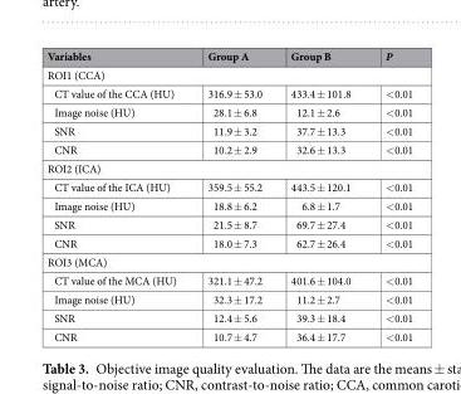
<table><thead><tr><td>Variables</td><td>Group A</td><td>Group B</td><td>P</td></tr></thead><tbody><tr><td colspan="4">ROI1 (CCA)</td></tr><tr><td>CT value of the CCA (HU)</td><td>316.9 ± 53.0</td><td>433.4 ± 101.8</td><td>&lt;0.01</td></tr><tr><td>Image noise (HU)</td><td>28.1 ± 6.8</td><td>12.1 ± 2.6</td><td>&lt;0.01</td></tr><tr><td>SNR</td><td>11.9 ± 3.2</td><td>37.7 ± 13.3</td><td>&lt;0.01</td></tr><tr><td>CNR</td><td>10.2 ± 2.9</td><td>32.6 ± 13.3</td><td>&lt;0.01</td></tr><tr><td colspan="4">ROI2 (ICA)</td></tr><tr><td>CT value of the ICA (HU)</td><td>359.5 ± 55.2</td><td>443.5 ± 120.1</td><td>&lt;0.01</td></tr><tr><td>Image noise (HU)</td><td>18.8 ± 6.2</td><td>6.8 ± 1.7</td><td>&lt;0.01</td></tr><tr><td>SNR</td><td>21.5 ± 8.7</td><td>69.7 ± 27.4</td><td>&lt;0.01</td></tr><tr><td>CNR</td><td>18.0 ± 7.3</td><td>62.7 ± 26.4</td><td>&lt;0.01</td></tr><tr><td colspan="4">ROI3 (MCA)</td></tr><tr><td>CT value of the MCA (HU)</td><td>321.1 ± 47.2</td><td>401.6 ± 104.0</td><td>&lt;0.01</td></tr><tr><td>Image noise (HU)</td><td>32.3 ± 17.2</td><td>11.2 ± 2.7</td><td>&lt;0.01</td></tr><tr><td>SNR</td><td>12.4 ± 5.6</td><td>39.3 ± 18.4</td><td>&lt;0.01</td></tr><tr><td>CNR</td><td>10.7 ± 4.7</td><td>36.4 ± 17.7</td><td>&lt;0.01</td></tr></tbody></table>